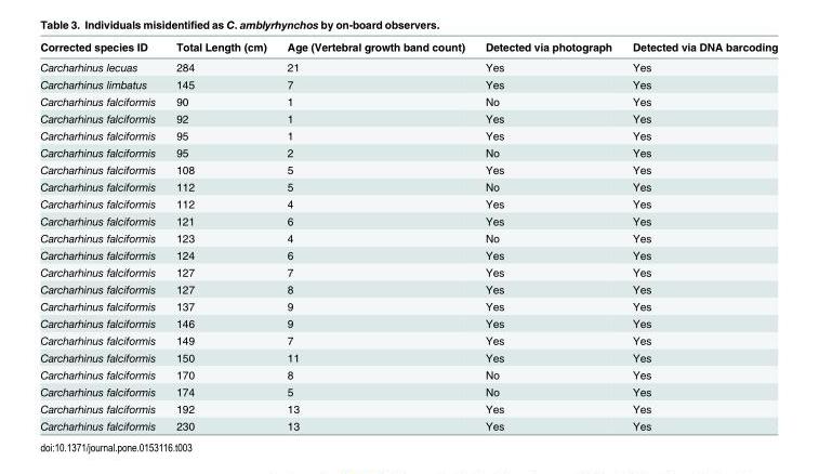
<table><thead><tr><td>Corrected species ID</td><td>Total Length (cm)</td><td>Age (Vertebral growth band count)</td><td>Detected via photograph</td><td>Detected via DNA barcoding</td></tr></thead><tbody><tr><td>Carcharhinus lecuas</td><td>284</td><td>21</td><td>Yes</td><td>Yes</td></tr><tr><td>Carcharhinus limbatus</td><td>145</td><td>7</td><td>Yes</td><td>Yes</td></tr><tr><td>Carcharhinus falciformis</td><td>90</td><td>1</td><td>No</td><td>Yes</td></tr><tr><td>Carcharhinus falciformis</td><td>92</td><td>1</td><td>Yes</td><td>Yes</td></tr><tr><td>Carcharhinus falciformis</td><td>95</td><td>1</td><td>Yes</td><td>Yes</td></tr><tr><td>Carcharhinus falciformis</td><td>95</td><td>2</td><td>No</td><td>Yes</td></tr><tr><td>Carcharhinus falciformis</td><td>108</td><td>5</td><td>Yes</td><td>Yes</td></tr><tr><td>Carcharhinus falciformis</td><td>112</td><td>5</td><td>No</td><td>Yes</td></tr><tr><td>Carcharhinus falciformis</td><td>112</td><td>4</td><td>Yes</td><td>Yes</td></tr><tr><td>Carcharhinus falciformis</td><td>121</td><td>6</td><td>Yes</td><td>Yes</td></tr><tr><td>Carcharhinus falciformis</td><td>123</td><td>4</td><td>No</td><td>Yes</td></tr><tr><td>Carcharhinus falciformis</td><td>124</td><td>6</td><td>Yes</td><td>Yes</td></tr><tr><td>Carcharhinus falciformis</td><td>127</td><td>7</td><td>Yes</td><td>Yes</td></tr><tr><td>Carcharhinus falciformis</td><td>127</td><td>8</td><td>Yes</td><td>Yes</td></tr><tr><td>Carcharhinus falciformis</td><td>137</td><td>9</td><td>Yes</td><td>Yes</td></tr><tr><td>Carcharhinus falciformis</td><td>146</td><td>9</td><td>Yes</td><td>Yes</td></tr><tr><td>Carcharhinus falciformis</td><td>149</td><td>7</td><td>Yes</td><td>Yes</td></tr><tr><td>Carcharhinus falciformis</td><td>150</td><td>11</td><td>Yes</td><td>Yes</td></tr><tr><td>Carcharhinus falciformis</td><td>170</td><td>8</td><td>No</td><td>Yes</td></tr><tr><td>Carcharhinus falciformis</td><td>174</td><td>5</td><td>No</td><td>Yes</td></tr><tr><td>Carcharhinus falciformis</td><td>192</td><td>13</td><td>Yes</td><td>Yes</td></tr><tr><td>Carcharhinus falciformis</td><td>230</td><td>13</td><td>Yes</td><td>Yes</td></tr></tbody></table>